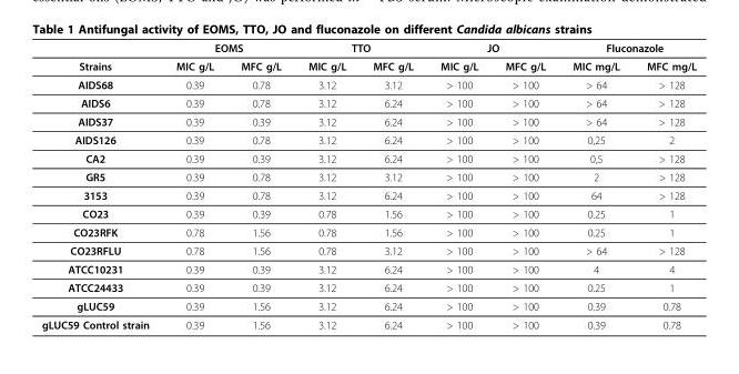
<table><thead><tr><td rowspan="2">Strains</td><td colspan="2">EOMS</td><td colspan="2">TTO</td><td colspan="2">JO</td><td colspan="2">Fluconazole</td></tr><tr><td>MIC g/L</td><td>MFC g/L</td><td>MIC g/L</td><td>MFC g/L</td><td>MIC g/L</td><td>MFC g/L</td><td>MIC mg/L</td><td>MFC mg/L</td></tr></thead><tbody><tr><td>AIDS68</td><td>0.39</td><td>0.78</td><td>3.12</td><td>3.12</td><td>&gt; 100</td><td>&gt; 100</td><td>&gt; 64</td><td>&gt; 128</td></tr><tr><td>AIDS6</td><td>0.39</td><td>0.78</td><td>3.12</td><td>6.24</td><td>&gt; 100</td><td>&gt; 100</td><td>&gt; 64</td><td>&gt; 128</td></tr><tr><td>AIDS37</td><td>0.39</td><td>0.39</td><td>3.12</td><td>6.24</td><td>&gt; 100</td><td>&gt; 100</td><td>&gt; 64</td><td>&gt; 128</td></tr><tr><td>AIDS126</td><td>0.39</td><td>0.78</td><td>3.12</td><td>6.24</td><td>&gt; 100</td><td>&gt; 100</td><td>0,25</td><td>2</td></tr><tr><td>CA2</td><td>0.39</td><td>0.39</td><td>3.12</td><td>6.24</td><td>&gt; 100</td><td>&gt; 100</td><td>0,5</td><td>&gt; 128</td></tr><tr><td>GR5</td><td>0.39</td><td>0.78</td><td>3.12</td><td>3.12</td><td>&gt; 100</td><td>&gt; 100</td><td>2</td><td>&gt; 128</td></tr><tr><td>3153</td><td>0.39</td><td>0.78</td><td>3.12</td><td>6.24</td><td>&gt; 100</td><td>&gt; 100</td><td>64</td><td>&gt; 128</td></tr><tr><td>CO23</td><td>0.39</td><td>0.39</td><td>0.78</td><td>1.56</td><td>&gt; 100</td><td>&gt; 100</td><td>0.25</td><td>1</td></tr><tr><td>CO23RFK</td><td>0.78</td><td>1.56</td><td>0.78</td><td>1.56</td><td>&gt; 100</td><td>&gt; 100</td><td>0.25</td><td>1</td></tr><tr><td>CO23RFLU</td><td>0.78</td><td>1.56</td><td>0.78</td><td>3.12</td><td>&gt; 100</td><td>&gt; 100</td><td>&gt; 64</td><td>&gt; 128</td></tr><tr><td>ATCC10231</td><td>0.39</td><td>0.39</td><td>3.12</td><td>6.24</td><td>&gt; 100</td><td>&gt; 100</td><td>4</td><td>4</td></tr><tr><td>ATCC24433</td><td>0.39</td><td>0.39</td><td>3.12</td><td>6.24</td><td>&gt; 100</td><td>&gt; 100</td><td>0.25</td><td>1</td></tr><tr><td>gLUC59</td><td>0.39</td><td>1.56</td><td>3.12</td><td>6.24</td><td>&gt; 100</td><td>&gt; 100</td><td>0.39</td><td>0.78</td></tr><tr><td>gLUC59 Control strain</td><td>0.39</td><td>1.56</td><td>3.12</td><td>6.24</td><td>&gt; 100</td><td>&gt; 100</td><td>0.39</td><td>0.78</td></tr></tbody></table>